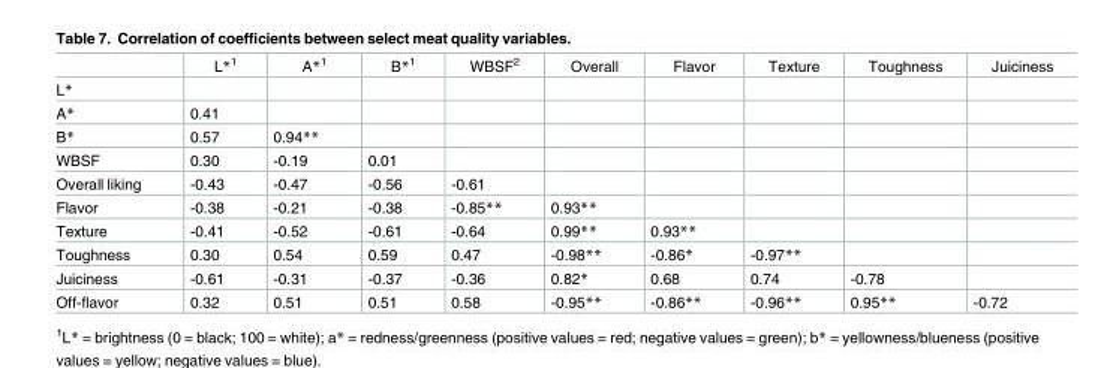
<table><thead><tr><td></td><td>L*<sup>1</sup></td><td>A*<sup>1</sup></td><td>B*<sup>1</sup></td><td>WBSF<sup>2</sup></td><td>Overall</td><td>Flavor</td><td>Texture</td><td>Toughness</td><td>Juiciness</td></tr></thead><tbody><tr><td colspan="10">L*</td></tr><tr><td>A*</td><td>0.41</td><td></td><td></td><td></td><td></td><td></td><td></td><td></td><td></td></tr><tr><td>B*</td><td>0.57</td><td>0.94**</td><td></td><td></td><td></td><td></td><td></td><td></td><td></td></tr><tr><td>WBSF</td><td>0.30</td><td>-0.19</td><td>0.01</td><td></td><td></td><td></td><td></td><td></td><td></td></tr><tr><td>Overall liking</td><td>-0.43</td><td>-0.47</td><td>-0.56</td><td>-0.61</td><td></td><td></td><td></td><td></td><td></td></tr><tr><td>Flavor</td><td>-0.38</td><td>-0.21</td><td>-0.38</td><td>-0.85**</td><td>0.93**</td><td></td><td></td><td></td><td></td></tr><tr><td>Texture</td><td>-0.41</td><td>-0.52</td><td>-0.61</td><td>-0.64</td><td>0.99**</td><td>0.93**</td><td></td><td></td><td></td></tr><tr><td>Toughness</td><td>0.30</td><td>0.54</td><td>0.59</td><td>0.47</td><td>-0.98**</td><td>-0.86*</td><td>-0.97**</td><td></td><td></td></tr><tr><td>Juiciness</td><td>-0.61</td><td>-0.31</td><td>-0.37</td><td>-0.36</td><td>0.82*</td><td>0.68</td><td>0.74</td><td>-0.78</td><td></td></tr><tr><td>Off-flavor</td><td>0.32</td><td>0.51</td><td>0.51</td><td>0.58</td><td>-0.95**</td><td>-0.86**</td><td>-0.96**</td><td>0.95**</td><td>-0.72</td></tr></tbody></table>